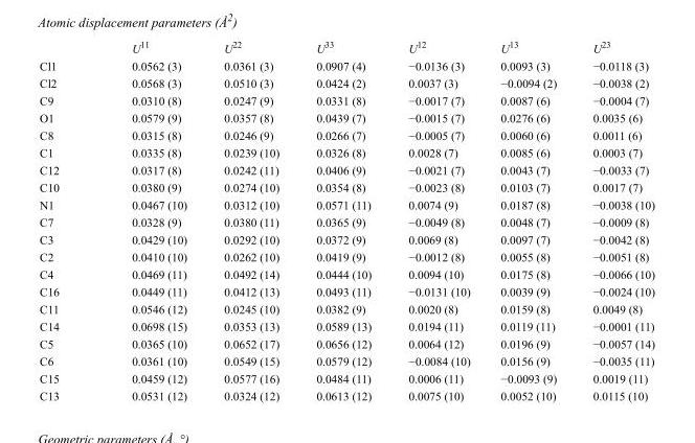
<table><thead><tr><td></td><td>U<sup>11</sup></td><td>U<sup>22</sup></td><td>U<sup>33</sup></td><td>U<sup>12</sup></td><td>U<sup>13</sup></td><td>U<sup>23</sup></td></tr></thead><tbody><tr><td>Cl1</td><td>0.0562 (3)</td><td>0.0361 (3)</td><td>0.0907 (4)</td><td>−0.0136 (3)</td><td>0.0093 (3)</td><td>−0.0118 (3)</td></tr><tr><td>Cl2</td><td>0.0568 (3)</td><td>0.0510 (3)</td><td>0.0424 (2)</td><td>0.0037 (3)</td><td>−0.0094 (2)</td><td>−0.0038 (2)</td></tr><tr><td>C9</td><td>0.0310 (8)</td><td>0.0247 (9)</td><td>0.0331 (8)</td><td>−0.0017 (7)</td><td>0.0087 (6)</td><td>−0.0004 (7)</td></tr><tr><td>O1</td><td>0.0579 (9)</td><td>0.0357 (8)</td><td>0.0439 (7)</td><td>−0.0015 (7)</td><td>0.0276 (6)</td><td>0.0035 (6)</td></tr><tr><td>C8</td><td>0.0315 (8)</td><td>0.0246 (9)</td><td>0.0266 (7)</td><td>−0.0005 (7)</td><td>0.0060 (6)</td><td>0.0011 (6)</td></tr><tr><td>C1</td><td>0.0335 (8)</td><td>0.0239 (10)</td><td>0.0326 (8)</td><td>0.0028 (7)</td><td>0.0085 (6)</td><td>0.0003 (7)</td></tr><tr><td>C12</td><td>0.0317 (8)</td><td>0.0242 (11)</td><td>0.0406 (9)</td><td>−0.0021 (7)</td><td>0.0043 (7)</td><td>−0.0033 (7)</td></tr><tr><td>C10</td><td>0.0380 (9)</td><td>0.0274 (10)</td><td>0.0354 (8)</td><td>−0.0023 (8)</td><td>0.0103 (7)</td><td>0.0017 (7)</td></tr><tr><td>N1</td><td>0.0467 (10)</td><td>0.0312 (10)</td><td>0.0571 (11)</td><td>0.0074 (9)</td><td>0.0187 (8)</td><td>−0.0038 (10)</td></tr><tr><td>C7</td><td>0.0328 (9)</td><td>0.0380 (11)</td><td>0.0365 (9)</td><td>−0.0049 (8)</td><td>0.0048 (7)</td><td>−0.0009 (8)</td></tr><tr><td>C3</td><td>0.0429 (10)</td><td>0.0292 (10)</td><td>0.0372 (9)</td><td>0.0069 (8)</td><td>0.0097 (7)</td><td>−0.0042 (8)</td></tr><tr><td>C2</td><td>0.0410 (10)</td><td>0.0262 (10)</td><td>0.0419 (9)</td><td>−0.0012 (8)</td><td>0.0055 (8)</td><td>−0.0051 (8)</td></tr><tr><td>C4</td><td>0.0469 (11)</td><td>0.0492 (14)</td><td>0.0444 (10)</td><td>0.0094 (10)</td><td>0.0175 (8)</td><td>−0.0066 (10)</td></tr><tr><td>C16</td><td>0.0449 (11)</td><td>0.0412 (13)</td><td>0.0493 (11)</td><td>−0.0131 (10)</td><td>0.0039 (9)</td><td>−0.0024 (10)</td></tr><tr><td>C11</td><td>0.0546 (12)</td><td>0.0245 (10)</td><td>0.0382 (9)</td><td>0.0020 (8)</td><td>0.0159 (8)</td><td>0.0049 (8)</td></tr><tr><td>C14</td><td>0.0698 (15)</td><td>0.0353 (13)</td><td>0.0589 (13)</td><td>0.0194 (11)</td><td>0.0119 (11)</td><td>−0.0001 (11)</td></tr><tr><td>C5</td><td>0.0365 (10)</td><td>0.0652 (17)</td><td>0.0656 (12)</td><td>0.0064 (12)</td><td>0.0196 (9)</td><td>−0.0057 (14)</td></tr><tr><td>C6</td><td>0.0361 (10)</td><td>0.0549 (15)</td><td>0.0579 (12)</td><td>−0.0084 (10)</td><td>0.0156 (9)</td><td>−0.0035 (11)</td></tr><tr><td>C15</td><td>0.0459 (12)</td><td>0.0577 (16)</td><td>0.0484 (11)</td><td>0.0006 (11)</td><td>−0.0093 (9)</td><td>0.0019 (11)</td></tr><tr><td>C13</td><td>0.0531 (12)</td><td>0.0324 (12)</td><td>0.0613 (12)</td><td>0.0075 (10)</td><td>0.0052 (10)</td><td>0.0115 (10)</td></tr></tbody></table>